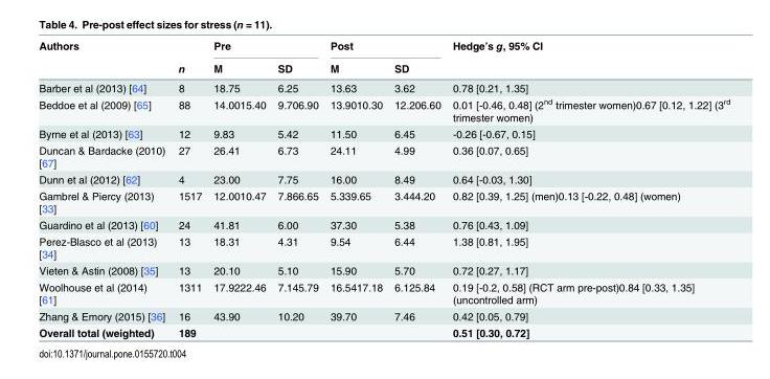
<table><thead><tr><td rowspan="2">Authors</td><td rowspan="2">n</td><td colspan="2">Pre</td><td colspan="2">Post</td><td rowspan="2">Hedge’s g, 95% CI</td></tr><tr><td>M</td><td>SD</td><td>M</td><td>SD</td></tr></thead><tbody><tr><td>Barber et al (2013) [64]</td><td>8</td><td>18.75</td><td>6.25</td><td>13.63</td><td>3.62</td><td>0.78 [0.21, 1.35]</td></tr><tr><td>Beddoe et al (2009) [65]</td><td>88</td><td>14.0015.40</td><td>9.706.90</td><td>13.9010.30</td><td>12.206.60</td><td>0.01 [-0.46, 0.48] (2<sup>nd</sup> trimester women)0.67 [0.12, 1.22] (3<sup>rd</sup> trimester women)</td></tr><tr><td>Byrne et al (2013) [63]</td><td>12</td><td>9.83</td><td>5.42</td><td>11.50</td><td>6.45</td><td>-0.26 [-0.67, 0.15]</td></tr><tr><td>Duncan &amp; Bardacke (2010) [67]</td><td>27</td><td>26.41</td><td>6.73</td><td>24.11</td><td>4.99</td><td>0.36 [0.07, 0.65]</td></tr><tr><td>Dunn et al (2012) [62]</td><td>4</td><td>23.00</td><td>7.75</td><td>16.00</td><td>8.49</td><td>0.64 [-0.03, 1.30]</td></tr><tr><td>Gambrel &amp; Piercy (2013) [33]</td><td>1517</td><td>12.0010.47</td><td>7.866.65</td><td>5.339.65</td><td>3.444.20</td><td>0.82 [0.39, 1.25] (men)0.13 [-0.22, 0.48] (women)</td></tr><tr><td>Guardino et al (2013) [60]</td><td>24</td><td>41.81</td><td>6.00</td><td>37.30</td><td>5.38</td><td>0.76 [0.43, 1.09]</td></tr><tr><td>Perez-Blasco et al (2013) [34]</td><td>13</td><td>18.31</td><td>4.31</td><td>9.54</td><td>6.44</td><td>1.38 [0.81, 1.95]</td></tr><tr><td>Vieten &amp; Astin (2008) [35]</td><td>13</td><td>20.10</td><td>5.10</td><td>15.90</td><td>5.70</td><td>0.72 [0.27, 1.17]</td></tr><tr><td>Woolhouse et al (2014) [61]</td><td>1311</td><td>17.9222.46</td><td>7.145.79</td><td>16.5417.18</td><td>6.125.84</td><td>0.19 [-0.2, 0.58] (RCT arm pre-post)0.84 [0.33, 1.35] (uncontrolled arm)</td></tr><tr><td>Zhang &amp; Emory (2015) [36]</td><td>16</td><td>43.90</td><td>10.20</td><td>39.70</td><td>7.46</td><td>0.42 [0.05, 0.79]</td></tr><tr><td>Overall total (weighted)</td><td>189</td><td></td><td></td><td></td><td></td><td>0.51 [0.30, 0.72]</td></tr></tbody></table>